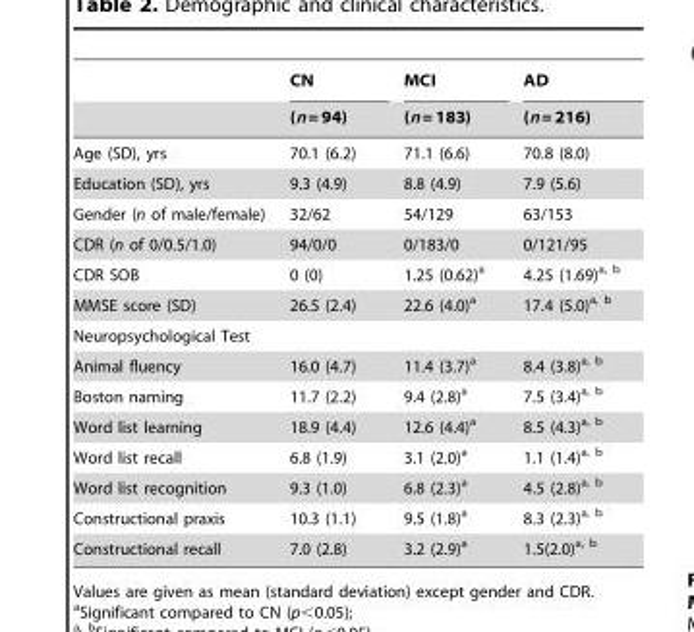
<table><thead><tr><td rowspan="2"></td><td rowspan="2">CN (n = 94)</td><td rowspan="2">MCI (n = 183)</td><td rowspan="2">AD (n = 216)</td></tr><tr></tr></thead><tbody><tr><td>Age (SD), yrs</td><td>70.1 (6.2)</td><td>71.1 (6.6)</td><td>70.8 (8.0)</td></tr><tr><td>Education (SD), yrs</td><td>9.3 (4.9)</td><td>8.8 (4.9)</td><td>7.9 (5.6)</td></tr><tr><td>Gender (n of male/female)</td><td>32/62</td><td>54/129</td><td>63/153</td></tr><tr><td>CDR (n of 0/0.5/1.0)</td><td>94/0/0</td><td>0/183/0</td><td>0/121/95</td></tr><tr><td>CDR SOB</td><td>0 (0)</td><td>1.25 (0.62)<sup>a</sup></td><td>4.25 (1.69)a, b</td></tr><tr><td>MMSE score (SD)</td><td>26.5 (2.4)</td><td>22.6 (4.0)<sup>a</sup></td><td>17.4 (5.0)a, b</td></tr><tr><td colspan="4">Neuropsychological Test</td></tr><tr><td>Animal fluency</td><td>16.0 (4.7)</td><td>11.4 (3.7)<sup>a</sup></td><td>8.4 (3.8)a, b</td></tr><tr><td>Boston naming</td><td>11.7 (2.2)</td><td>9.4 (2.8)<sup>a</sup></td><td>7.5 (3.4)a, b</td></tr><tr><td>Word list learning</td><td>18.9 (4.4)</td><td>12.6 (4.4)<sup>a</sup></td><td>8.5 (4.3)a, b</td></tr><tr><td>Word list recall</td><td>6.8 (1.9)</td><td>3.1 (2.0)<sup>a</sup></td><td>1.1 (1.4)a, b</td></tr><tr><td>Word list recognition</td><td>9.3 (1.0)</td><td>6.8 (2.3)<sup>a</sup></td><td>4.5 (2.8)a, b</td></tr><tr><td>Constructional praxis</td><td>10.3 (1.1)</td><td>9.5 (1.8)<sup>a</sup></td><td>8.3 (2.3)a, b</td></tr><tr><td>Constructional recall</td><td>7.0 (2.8)</td><td>3.2 (2.9)<sup>a</sup></td><td>1.5(2.0)a, b</td></tr></tbody></table>